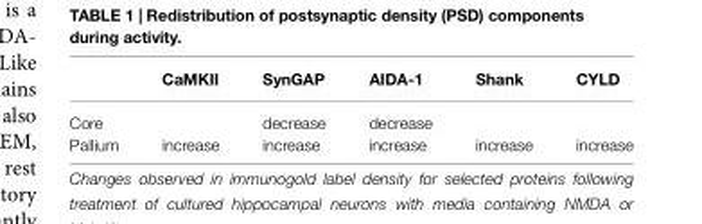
<table><thead><tr><td></td><td>CaMKII</td><td>SynGAP</td><td>AIDA-1</td><td>Shank</td><td>CYLD</td></tr></thead><tbody><tr><td>Core</td><td></td><td>decrease</td><td>decrease</td><td></td><td></td></tr><tr><td>Pallium</td><td>increase</td><td>increase</td><td>increase</td><td>increase</td><td>increase</td></tr></tbody></table>